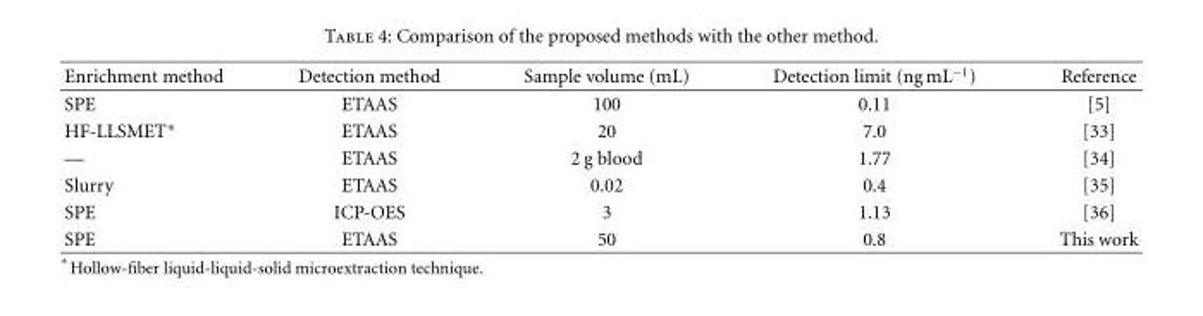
<table><thead><tr><td>Enrichment method</td><td>Detection method</td><td>Sample volume (mL)</td><td>Detection limit (ng mL<sup>−1</sup>)</td><td>Reference</td></tr></thead><tbody><tr><td>SPE</td><td>ETAAS</td><td>100</td><td>0.11</td><td>[5]</td></tr><tr><td>HF-LLSMET∗</td><td>ETAAS</td><td>20</td><td>7.0</td><td>[33]</td></tr><tr><td>—</td><td>ETAAS</td><td>2 g blood</td><td>1.77</td><td>[34]</td></tr><tr><td>Slurry</td><td>ETAAS</td><td>0.02</td><td>0.4</td><td>[35]</td></tr><tr><td>SPE</td><td>ICP-OES</td><td>3</td><td>1.13</td><td>[36]</td></tr><tr><td>SPE</td><td>ETAAS</td><td>50</td><td>0.8</td><td>This work</td></tr></tbody></table>